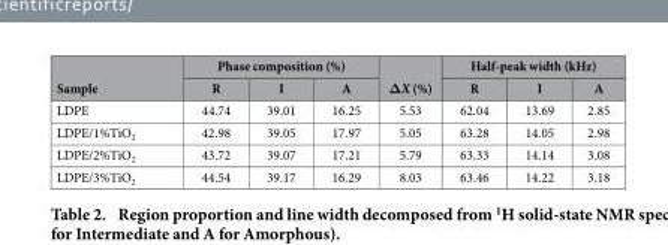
<table><thead><tr><td rowspan="2">Sample</td><td colspan="3">Phase composition (%)</td><td rowspan="2">ΔX (%)</td><td colspan="3">Half-peak width (kHz)</td></tr><tr><td>R</td><td>I</td><td>A</td><td>R</td><td>I</td><td>A</td></tr></thead><tbody><tr><td>LDPE</td><td>44.74</td><td>39.01</td><td>16.25</td><td>5.53</td><td>62.04</td><td>13.69</td><td>2.85</td></tr><tr><td>LDPE/1%TiO<sub>2</sub></td><td>42.98</td><td>39.05</td><td>17.97</td><td>5.05</td><td>63.28</td><td>14.05</td><td>2.98</td></tr><tr><td>LDPE/2%TiO<sub>2</sub></td><td>43.72</td><td>39.07</td><td>17.21</td><td>5.79</td><td>63.33</td><td>14.14</td><td>3.08</td></tr><tr><td>LDPE/3%TiO<sub>2</sub></td><td>44.54</td><td>39.17</td><td>16.29</td><td>8.03</td><td>63.46</td><td>14.22</td><td>3.18</td></tr></tbody></table>